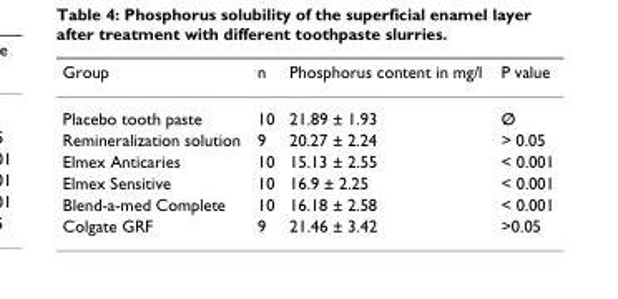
<table><thead><tr><td>Group</td><td>n</td><td>Phosphorus content in mg/l</td><td>P value</td></tr></thead><tbody><tr><td>Placebo tooth paste</td><td>10</td><td>21.89 ± 1.93</td><td>Ø</td></tr><tr><td>Remineralization solution</td><td>9</td><td>20.27 ± 2.24</td><td>&gt; 0.05</td></tr><tr><td>Elmex Anticaries</td><td>10</td><td>15.13 ± 2.55</td><td>&lt; 0.001</td></tr><tr><td>Elmex Sensitive</td><td>10</td><td>16.9 ± 2.25</td><td>&lt; 0.001</td></tr><tr><td>Blend-a-med Complete</td><td>10</td><td>16.18 ± 2.58</td><td>&lt; 0.001</td></tr><tr><td>Colgate GRF</td><td>9</td><td>21.46 ± 3.42</td><td>&gt;0.05</td></tr></tbody></table>